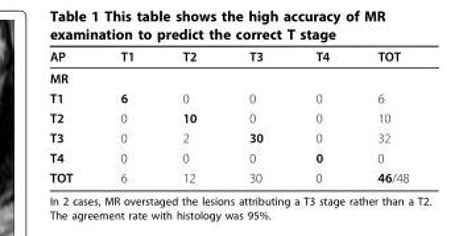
<table><thead><tr><td>AP</td><td>T1</td><td>T2</td><td>T3</td><td>T4</td><td>TOT</td></tr></thead><tbody><tr><td colspan="6">MR</td></tr><tr><td>T1</td><td>6</td><td>0</td><td>0</td><td>0</td><td>6</td></tr><tr><td>T2</td><td>0</td><td>10</td><td>0</td><td>0</td><td>10</td></tr><tr><td>T3</td><td>0</td><td>2</td><td>30</td><td>0</td><td>32</td></tr><tr><td>T4</td><td>0</td><td>0</td><td>0</td><td>0</td><td>0</td></tr><tr><td>TOT</td><td>6</td><td>12</td><td>30</td><td>0</td><td>46/48</td></tr></tbody></table>